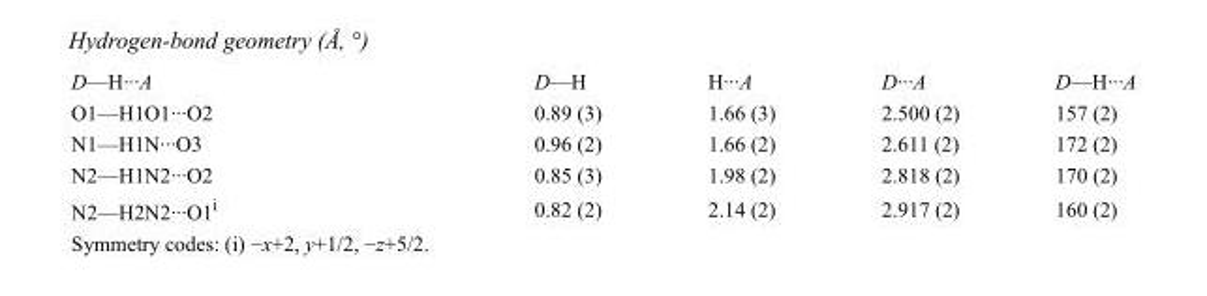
<table><tbody><tr><td>D—H···A</td><td>D—H</td><td>H···A</td><td>D···A</td><td>D—H···A</td></tr><tr><td>O1—H1O1···O2</td><td>0.89 (3)</td><td>1.66 (3)</td><td>2.500 (2)</td><td>157 (2)</td></tr><tr><td>N1—H1N···O3</td><td>0.96 (2)</td><td>1.66 (2)</td><td>2.611 (2)</td><td>172 (2)</td></tr><tr><td>N2—H1N2···O2</td><td>0.85 (3)</td><td>1.98 (2)</td><td>2.818 (2)</td><td>170 (2)</td></tr><tr><td>N2—H2N2···O1<sup>i</sup></td><td>0.82 (2)</td><td>2.14 (2)</td><td>2.917 (2)</td><td>160 (2)</td></tr></tbody></table>